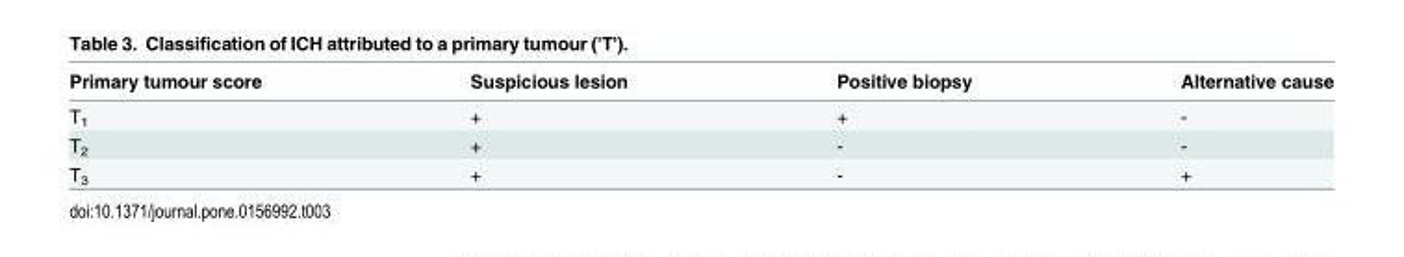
<table><thead><tr><td>Primary tumour score</td><td>Suspicious lesion</td><td>Positive biopsy</td><td>Alternative cause</td></tr></thead><tbody><tr><td>T<sub>1</sub></td><td>+</td><td>+</td><td>-</td></tr><tr><td>T<sub>2</sub></td><td>+</td><td>-</td><td>-</td></tr><tr><td>T<sub>3</sub></td><td>+</td><td>-</td><td>+</td></tr></tbody></table>